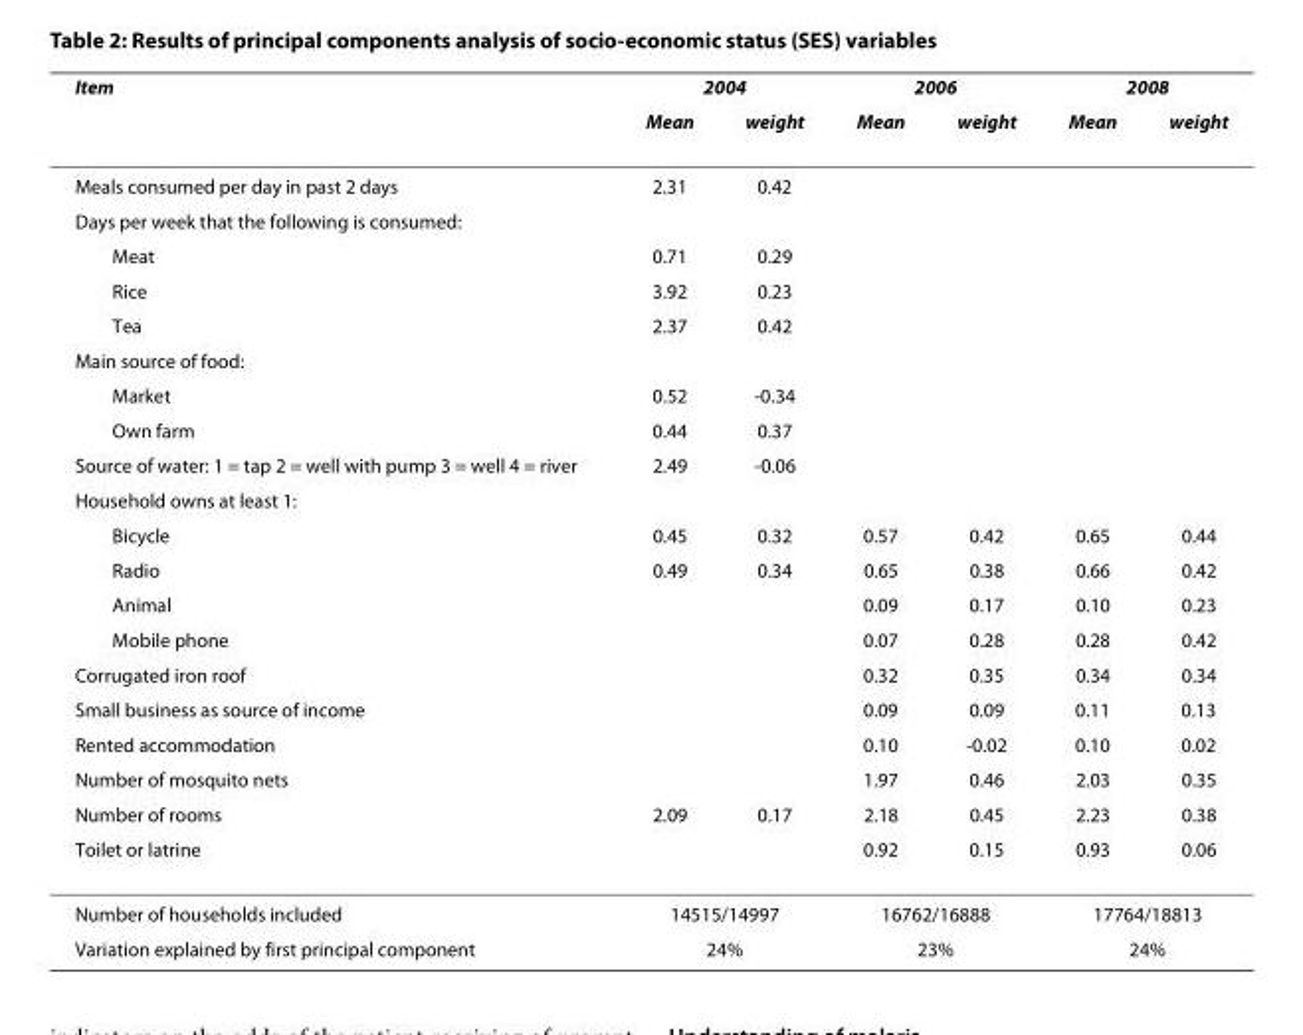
<table><thead><tr><td rowspan="2">Item</td><td colspan="2">2004</td><td colspan="2">2006</td><td colspan="2">2008</td></tr><tr><td>Mean</td><td>weight</td><td>Mean</td><td>weight</td><td>Mean</td><td>weight</td></tr></thead><tbody><tr><td>Meals consumed per day in past 2 days</td><td>2.31</td><td>0.42</td><td></td><td></td><td></td><td></td></tr><tr><td colspan="7">Days per week that the following is consumed:</td></tr><tr><td>Meat</td><td>0.71</td><td>0.29</td><td></td><td></td><td></td><td></td></tr><tr><td>Rice</td><td>3.92</td><td>0.23</td><td></td><td></td><td></td><td></td></tr><tr><td>Tea</td><td>2.37</td><td>0.42</td><td></td><td></td><td></td><td></td></tr><tr><td colspan="7">Main source of food:</td></tr><tr><td>Market</td><td>0.52</td><td>-0.34</td><td></td><td></td><td></td><td></td></tr><tr><td>Own farm</td><td>0.44</td><td>0.37</td><td></td><td></td><td></td><td></td></tr><tr><td>Source of water: 1 = tap 2 = well with pump 3 = well 4 = river</td><td>2.49</td><td>-0.06</td><td></td><td></td><td></td><td></td></tr><tr><td colspan="7">Household owns at least 1:</td></tr><tr><td>Bicycle</td><td>0.45</td><td>0.32</td><td>0.57</td><td>0.42</td><td>0.65</td><td>0.44</td></tr><tr><td>Radio</td><td>0.49</td><td>0.34</td><td>0.65</td><td>0.38</td><td>0.66</td><td>0.42</td></tr><tr><td>Animal</td><td></td><td></td><td>0.09</td><td>0.17</td><td>0.10</td><td>0.23</td></tr><tr><td>Mobile phone</td><td></td><td></td><td>0.07</td><td>0.28</td><td>0.28</td><td>0.42</td></tr><tr><td>Corrugated iron roof</td><td></td><td></td><td>0.32</td><td>0.35</td><td>0.34</td><td>0.34</td></tr><tr><td>Small business as source of income</td><td></td><td></td><td>0.09</td><td>0.09</td><td>0.11</td><td>0.13</td></tr><tr><td>Rented accommodation</td><td></td><td></td><td>0.10</td><td>-0.02</td><td>0.10</td><td>0.02</td></tr><tr><td>Number of mosquito nets</td><td></td><td></td><td>1.97</td><td>0.46</td><td>2.03</td><td>0.35</td></tr><tr><td>Number of rooms</td><td>2.09</td><td>0.17</td><td>2.18</td><td>0.45</td><td>2.23</td><td>0.38</td></tr><tr><td>Toilet or latrine</td><td></td><td></td><td>0.92</td><td>0.15</td><td>0.93</td><td>0.06</td></tr><tr><td>Number of households included</td><td colspan="2">14515/14997</td><td colspan="2">16762/16888</td><td colspan="2">17764/18813</td></tr><tr><td>Variation explained by first principal component</td><td colspan="2">24%</td><td colspan="2">23%</td><td colspan="2">24%</td></tr></tbody></table>